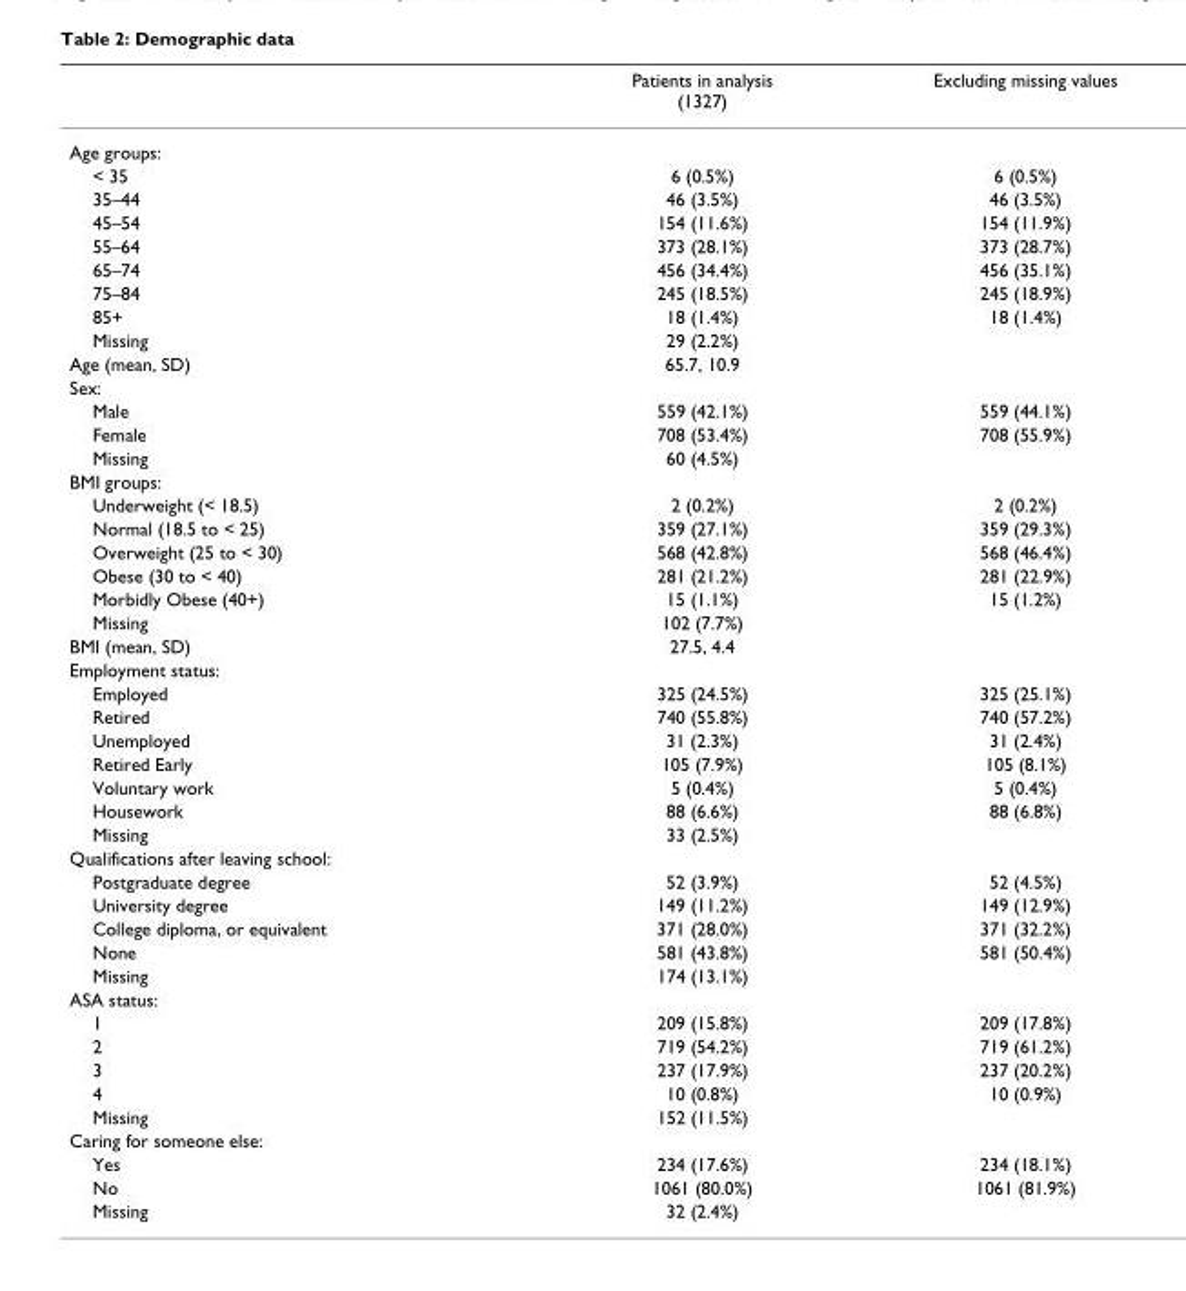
<table><thead><tr><td></td><td>Patients in analysis (1327)</td><td>Excluding missing values</td></tr></thead><tbody><tr><td colspan="3">Age groups:</td></tr><tr><td>&lt; 35</td><td>6 (0.5%)</td><td>6 (0.5%)</td></tr><tr><td>35–44</td><td>46 (3.5%)</td><td>46 (3.5%)</td></tr><tr><td>45–54</td><td>154 (11.6%)</td><td>154 (11.9%)</td></tr><tr><td>55–64</td><td>373 (28.1%)</td><td>373 (28.7%)</td></tr><tr><td>65–74</td><td>456 (34.4%)</td><td>456 (35.1%)</td></tr><tr><td>75–84</td><td>245 (18.5%)</td><td>245 (18.9%)</td></tr><tr><td>85+</td><td>18 (1.4%)</td><td>18 (1.4%)</td></tr><tr><td>Missing</td><td>29 (2.2%)</td><td></td></tr><tr><td>Age (mean, SD)</td><td>65.7, 10.9</td><td></td></tr><tr><td colspan="3">Sex:</td></tr><tr><td>Male</td><td>559 (42.1%)</td><td>559 (44.1%)</td></tr><tr><td>Female</td><td>708 (53.4%)</td><td>708 (55.9%)</td></tr><tr><td>Missing</td><td>60 (4.5%)</td><td></td></tr><tr><td colspan="3">BMI groups:</td></tr><tr><td>Underweight (&lt; 18.5)</td><td>2 (0.2%)</td><td>2 (0.2%)</td></tr><tr><td>Normal (18.5 to &lt; 25)</td><td>359 (27.1%)</td><td>359 (29.3%)</td></tr><tr><td>Overweight (25 to &lt; 30)</td><td>568 (42.8%)</td><td>568 (46.4%)</td></tr><tr><td>Obese (30 to &lt; 40)</td><td>281 (21.2%)</td><td>281 (22.9%)</td></tr><tr><td>Morbidly Obese (40+)</td><td>15 (1.1%)</td><td>15 (1.2%)</td></tr><tr><td>Missing</td><td>102 (7.7%)</td><td></td></tr><tr><td>BMI (mean, SD)</td><td>27.5, 4.4</td><td></td></tr><tr><td colspan="3">Employment status:</td></tr><tr><td>Employed</td><td>325 (24.5%)</td><td>325 (25.1%)</td></tr><tr><td>Retired</td><td>740 (55.8%)</td><td>740 (57.2%)</td></tr><tr><td>Unemployed</td><td>31 (2.3%)</td><td>31 (2.4%)</td></tr><tr><td>Retired Early</td><td>105 (7.9%)</td><td>105 (8.1%)</td></tr><tr><td>Voluntary work</td><td>5 (0.4%)</td><td>5 (0.4%)</td></tr><tr><td>Housework</td><td>88 (6.6%)</td><td>88 (6.8%)</td></tr><tr><td>Missing</td><td>33 (2.5%)</td><td></td></tr><tr><td colspan="3">Qualifications after leaving school:</td></tr><tr><td>Postgraduate degree</td><td>52 (3.9%)</td><td>52 (4.5%)</td></tr><tr><td>University degree</td><td>149 (11.2%)</td><td>149 (12.9%)</td></tr><tr><td>College diploma, or equivalent</td><td>371 (28.0%)</td><td>371 (32.2%)</td></tr><tr><td>None</td><td>581 (43.8%)</td><td>581 (50.4%)</td></tr><tr><td>Missing</td><td>174 (13.1%)</td><td></td></tr><tr><td colspan="3">ASA status:</td></tr><tr><td>1</td><td>209 (15.8%)</td><td>209 (17.8%)</td></tr><tr><td>2</td><td>719 (54.2%)</td><td>719 (61.2%)</td></tr><tr><td>3</td><td>237 (17.9%)</td><td>237 (20.2%)</td></tr><tr><td>4</td><td>10 (0.8%)</td><td>10 (0.9%)</td></tr><tr><td>Missing</td><td>152 (11.5%)</td><td></td></tr><tr><td colspan="3">Caring for someone else:</td></tr><tr><td>Yes</td><td>234 (17.6%)</td><td>234 (18.1%)</td></tr><tr><td>No</td><td>1061 (80.0%)</td><td>1061 (81.9%)</td></tr><tr><td>Missing</td><td>32 (2.4%)</td><td></td></tr></tbody></table>